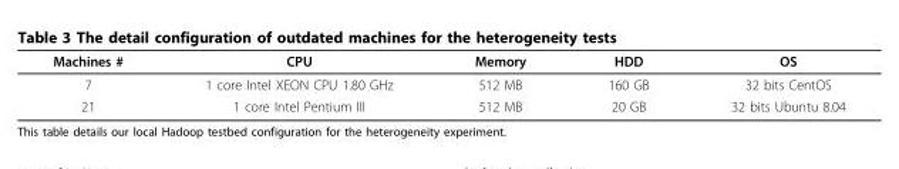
<table><thead><tr><td>Machines #</td><td>CPU</td><td>Memory</td><td>HDD</td><td>OS</td></tr></thead><tbody><tr><td>7</td><td>1 core Intel XEON CPU 1.80 GHz</td><td>512 MB</td><td>160 GB</td><td>32 bits CentOS</td></tr><tr><td>21</td><td>1 core Intel Pentium III</td><td>512 MB</td><td>20 GB</td><td>32 bits Ubuntu 8.04</td></tr></tbody></table>